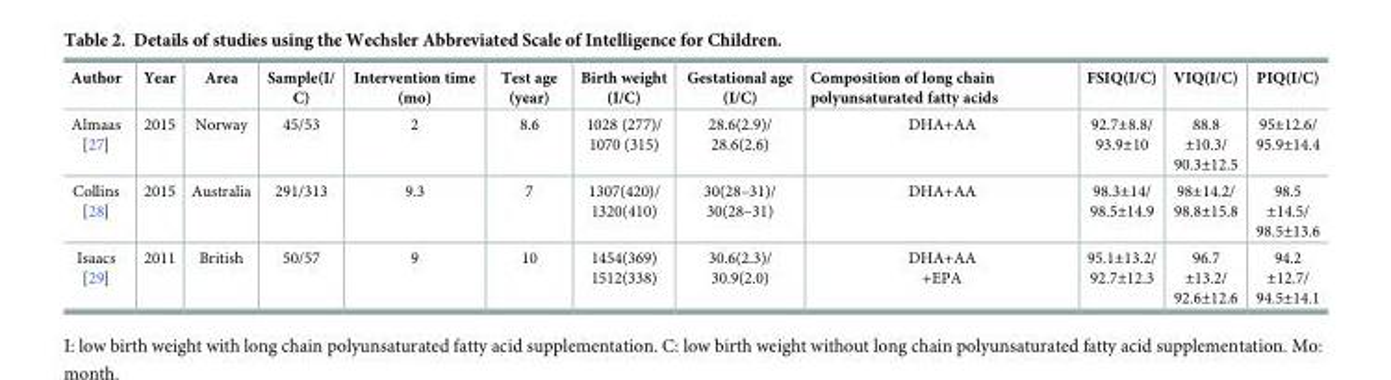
<table><thead><tr><td>Author</td><td>Year</td><td>Area</td><td>Sample(I/ C)</td><td>Intervention time (mo)</td><td>Test age (year)</td><td>Birth weight (I/C)</td><td>Gestational age (I/C)</td><td>Composition of long chain polyunsaturated fatty acids</td><td>FSIQ(I/C)</td><td>VIQ(I/C)</td><td>PIQ(I/C)</td></tr></thead><tbody><tr><td>Almaas [27]</td><td>2015</td><td>Norway</td><td>45/53</td><td>2</td><td>8.6</td><td>1028 (277)/ 1070 (315)</td><td>28.6(2.9)/ 28.6(2.6)</td><td>DHA+AA</td><td>92.7±8.8/ 93.9±10</td><td>88.8 ±10.3/ 90.3±12.5</td><td>95±12.6/ 95.9±14.4</td></tr><tr><td>Collins [28]</td><td>2015</td><td>Australia</td><td>291/313</td><td>9.3</td><td>7</td><td>1307(420)/ 1320(410)</td><td>30(28–31)/ 30(28–31)</td><td>DHA+AA</td><td>98.3±14/ 98.5±14.9</td><td>98±14.2/ 98.8±15.8</td><td>98.5 ±14.5/ 98.5±13.6</td></tr><tr><td>Isaacs [29]</td><td>2011</td><td>British</td><td>50/57</td><td>9</td><td>10</td><td>1454(369) 1512(338)</td><td>30.6(2.3)/ 30.9(2.0)</td><td>DHA+AA +EPA</td><td>95.1±13.2/ 92.7±12.3</td><td>96.7 ±13.2/ 92.6±12.6</td><td>94.2 ±12.7/ 94.5±14.1</td></tr></tbody></table>